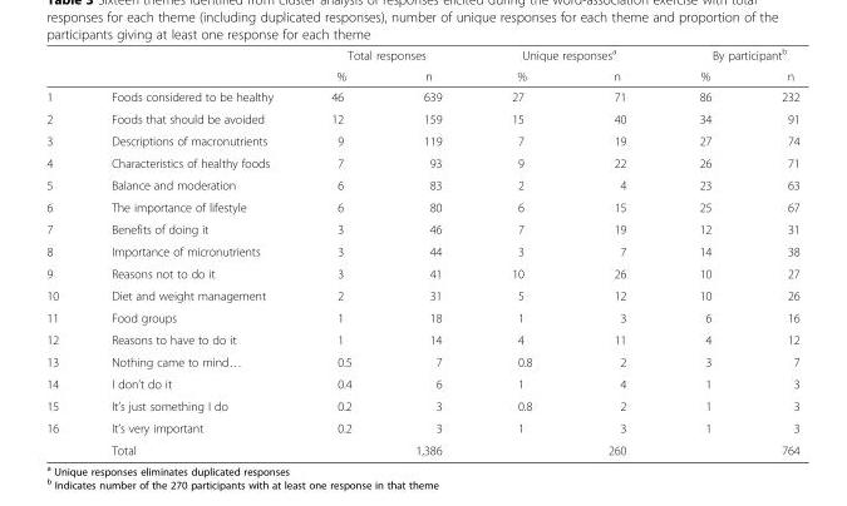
<table><thead><tr><td rowspan="2"></td><td rowspan="2"></td><td colspan="2">Total responses</td><td colspan="2">Unique responses<sup>a</sup></td><td colspan="2">By participant<sup>b</sup></td></tr><tr><td>%</td><td>n</td><td>%</td><td>n</td><td>%</td><td>n</td></tr></thead><tbody><tr><td>1</td><td>Foods considered to be healthy</td><td>46</td><td>639</td><td>27</td><td>71</td><td>86</td><td>232</td></tr><tr><td>2</td><td>Foods that should be avoided</td><td>12</td><td>159</td><td>15</td><td>40</td><td>34</td><td>91</td></tr><tr><td>3</td><td>Descriptions of macronutrients</td><td>9</td><td>119</td><td>7</td><td>19</td><td>27</td><td>74</td></tr><tr><td>4</td><td>Characteristics of healthy foods</td><td>7</td><td>93</td><td>9</td><td>22</td><td>26</td><td>71</td></tr><tr><td>5</td><td>Balance and moderation</td><td>6</td><td>83</td><td>2</td><td>4</td><td>23</td><td>63</td></tr><tr><td>6</td><td>The importance of lifestyle</td><td>6</td><td>80</td><td>6</td><td>15</td><td>25</td><td>67</td></tr><tr><td>7</td><td>Benefits of doing it</td><td>3</td><td>46</td><td>7</td><td>19</td><td>12</td><td>31</td></tr><tr><td>8</td><td>Importance of micronutrients</td><td>3</td><td>44</td><td>3</td><td>7</td><td>14</td><td>38</td></tr><tr><td>9</td><td>Reasons not to do it</td><td>3</td><td>41</td><td>10</td><td>26</td><td>10</td><td>27</td></tr><tr><td>10</td><td>Diet and weight management</td><td>2</td><td>31</td><td>5</td><td>12</td><td>10</td><td>26</td></tr><tr><td>11</td><td>Food groups</td><td>1</td><td>18</td><td>1</td><td>3</td><td>6</td><td>16</td></tr><tr><td>12</td><td>Reasons to have to do it</td><td>1</td><td>14</td><td>4</td><td>11</td><td>4</td><td>12</td></tr><tr><td>13</td><td>Nothing came to mind…</td><td>0.5</td><td>7</td><td>0.8</td><td>2</td><td>3</td><td>7</td></tr><tr><td>14</td><td>I don’t do it</td><td>0.4</td><td>6</td><td>1</td><td>4</td><td>1</td><td>3</td></tr><tr><td>15</td><td>It’s just something I do</td><td>0.2</td><td>3</td><td>0.8</td><td>2</td><td>1</td><td>3</td></tr><tr><td rowspan="2">16</td><td>It’s very important</td><td>0.2</td><td>3</td><td>1</td><td>3</td><td>1</td><td>3</td></tr><tr><td>Total</td><td></td><td>1,386</td><td></td><td>260</td><td></td><td>764</td></tr></tbody></table>